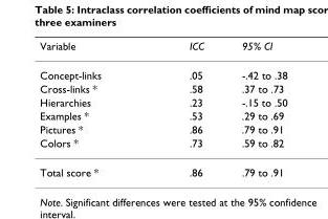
<table><thead><tr><td>Variable</td><td>ICC</td><td>95% CI</td></tr></thead><tbody><tr><td>Concept-links</td><td>.05</td><td>-.42 to .38</td></tr><tr><td>Cross-links *</td><td>.58</td><td>.37 to .73</td></tr><tr><td>Hierarchies</td><td>.23</td><td>-.15 to .50</td></tr><tr><td>Examples *</td><td>.53</td><td>.29 to .69</td></tr><tr><td>Pictures *</td><td>.86</td><td>.79 to .91</td></tr><tr><td>Colors *</td><td>.73</td><td>.59 to .82</td></tr><tr><td>Total score *</td><td>.86</td><td>.79 to .91</td></tr></tbody></table>